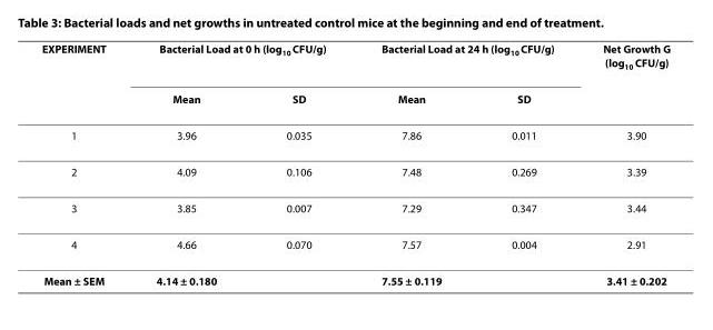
<table><thead><tr><td rowspan="2">EXPERIMENT</td><td colspan="2">Bacterial Load at 0 h (log<sub>10</sub> CFU/g)</td><td colspan="2">Bacterial Load at 24 h (log<sub>10</sub> CFU/g)</td><td rowspan="2">Net Growth G (log<sub>10</sub> CFU/g)</td></tr><tr><td>Mean</td><td>SD</td><td>Mean</td><td>SD</td></tr></thead><tbody><tr><td>1</td><td>3.96</td><td>0.035</td><td>7.86</td><td>0.011</td><td>3.90</td></tr><tr><td>2</td><td>4.09</td><td>0.106</td><td>7.48</td><td>0.269</td><td>3.39</td></tr><tr><td>3</td><td>3.85</td><td>0.007</td><td>7.29</td><td>0.347</td><td>3.44</td></tr><tr><td>4</td><td>4.66</td><td>0.070</td><td>7.57</td><td>0.004</td><td>2.91</td></tr><tr><td>Mean ± SEM</td><td>4.14 ± 0.180</td><td></td><td>7.55 ± 0.119</td><td></td><td>3.41 ± 0.202</td></tr></tbody></table>